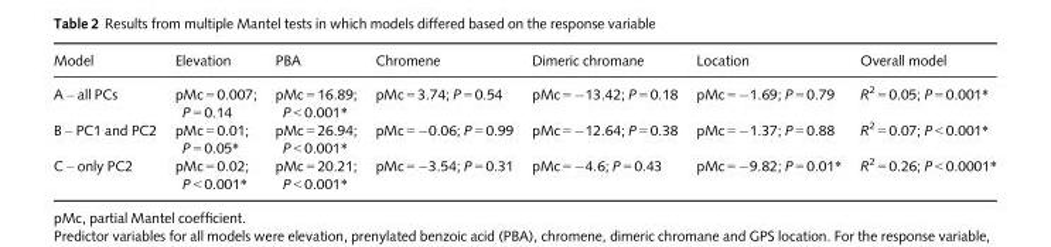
<table><thead><tr><td>Model</td><td>Elevation</td><td>PBA</td><td>Chromene</td><td>Dimeric chromane</td><td>Location</td><td>Overall model</td></tr></thead><tbody><tr><td>A – all PCs</td><td>pMc = 0.007; P = 0.14</td><td>pMc = 16.89; P &lt; 0.001*</td><td>pMc = 3.74; P = 0.54</td><td>pMc = −13.42; P = 0.18</td><td>pMc = −1.69; P = 0.79</td><td>R<sup>2</sup> = 0.05; P = 0.001*</td></tr><tr><td>B – PC1 and PC2</td><td>pMc = 0.01; P = 0.05*</td><td>pMc = 26.94; P &lt; 0.001*</td><td>pMc = −0.06; P = 0.99</td><td>pMc = −12.64; P = 0.38</td><td>pMc = −1.37; P = 0.88</td><td>R<sup>2</sup> = 0.07; P &lt; 0.001*</td></tr><tr><td>C – only PC2</td><td>pMc = 0.02; P &lt; 0.001*</td><td>pMc = 20.21; P &lt; 0.001*</td><td>pMc = −3.54; P = 0.31</td><td>pMc = −4.6; P = 0.43</td><td>pMc = −9.82; P = 0.01*</td><td>R<sup>2</sup> = 0.26; P &lt; 0.0001*</td></tr></tbody></table>